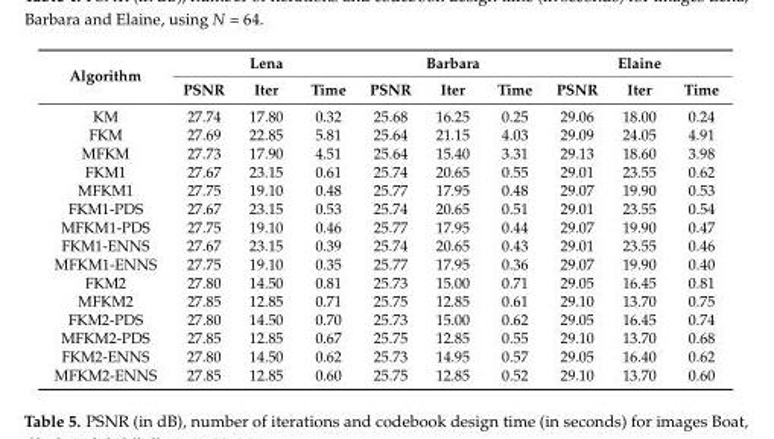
<table><thead><tr><td rowspan="2">Algorithm</td><td colspan="3">Lena</td><td colspan="3">Barbara</td><td colspan="3">Elaine</td></tr><tr><td>PSNR</td><td>Iter</td><td>Time</td><td>PSNR</td><td>Iter</td><td>Time</td><td>PSNR</td><td>Iter</td><td>Time</td></tr></thead><tbody><tr><td>KM</td><td>27.74</td><td>17.80</td><td>0.32</td><td>25.68</td><td>16.25</td><td>0.25</td><td>29.06</td><td>18.00</td><td>0.24</td></tr><tr><td>FKM</td><td>27.69</td><td>22.85</td><td>5.81</td><td>25.64</td><td>21.15</td><td>4.03</td><td>29.09</td><td>24.05</td><td>4.91</td></tr><tr><td>MFKM</td><td>27.73</td><td>17.90</td><td>4.51</td><td>25.64</td><td>15.40</td><td>3.31</td><td>29.13</td><td>18.60</td><td>3.98</td></tr><tr><td>FKM1</td><td>27.67</td><td>23.15</td><td>0.61</td><td>25.74</td><td>20.65</td><td>0.55</td><td>29.01</td><td>23.55</td><td>0.62</td></tr><tr><td>MFKM1</td><td>27.75</td><td>19.10</td><td>0.48</td><td>25.77</td><td>17.95</td><td>0.48</td><td>29.07</td><td>19.90</td><td>0.53</td></tr><tr><td>FKM1-PDS</td><td>27.67</td><td>23.15</td><td>0.53</td><td>25.74</td><td>20.65</td><td>0.51</td><td>29.01</td><td>23.55</td><td>0.54</td></tr><tr><td>MFKM1-PDS</td><td>27.75</td><td>19.10</td><td>0.46</td><td>25.77</td><td>17.95</td><td>0.44</td><td>29.07</td><td>19.90</td><td>0.47</td></tr><tr><td>FKM1-ENNS</td><td>27.67</td><td>23.15</td><td>0.39</td><td>25.74</td><td>20.65</td><td>0.43</td><td>29.01</td><td>23.55</td><td>0.46</td></tr><tr><td>MFKM1-ENNS</td><td>27.75</td><td>19.10</td><td>0.35</td><td>25.77</td><td>17.95</td><td>0.36</td><td>29.07</td><td>19.90</td><td>0.40</td></tr><tr><td>FKM2</td><td>27.80</td><td>14.50</td><td>0.81</td><td>25.73</td><td>15.00</td><td>0.71</td><td>29.05</td><td>16.45</td><td>0.81</td></tr><tr><td>MFKM2</td><td>27.85</td><td>12.85</td><td>0.71</td><td>25.75</td><td>12.85</td><td>0.61</td><td>29.10</td><td>13.70</td><td>0.75</td></tr><tr><td>FKM2-PDS</td><td>27.80</td><td>14.50</td><td>0.70</td><td>25.73</td><td>15.00</td><td>0.62</td><td>29.05</td><td>16.45</td><td>0.74</td></tr><tr><td>MFKM2-PDS</td><td>27.85</td><td>12.85</td><td>0.67</td><td>25.75</td><td>12.85</td><td>0.55</td><td>29.10</td><td>13.70</td><td>0.68</td></tr><tr><td>FKM2-ENNS</td><td>27.80</td><td>14.50</td><td>0.62</td><td>25.73</td><td>14.95</td><td>0.57</td><td>29.05</td><td>16.40</td><td>0.62</td></tr><tr><td>MFKM2-ENNS</td><td>27.85</td><td>12.85</td><td>0.60</td><td>25.75</td><td>12.85</td><td>0.52</td><td>29.10</td><td>13.70</td><td>0.60</td></tr></tbody></table>